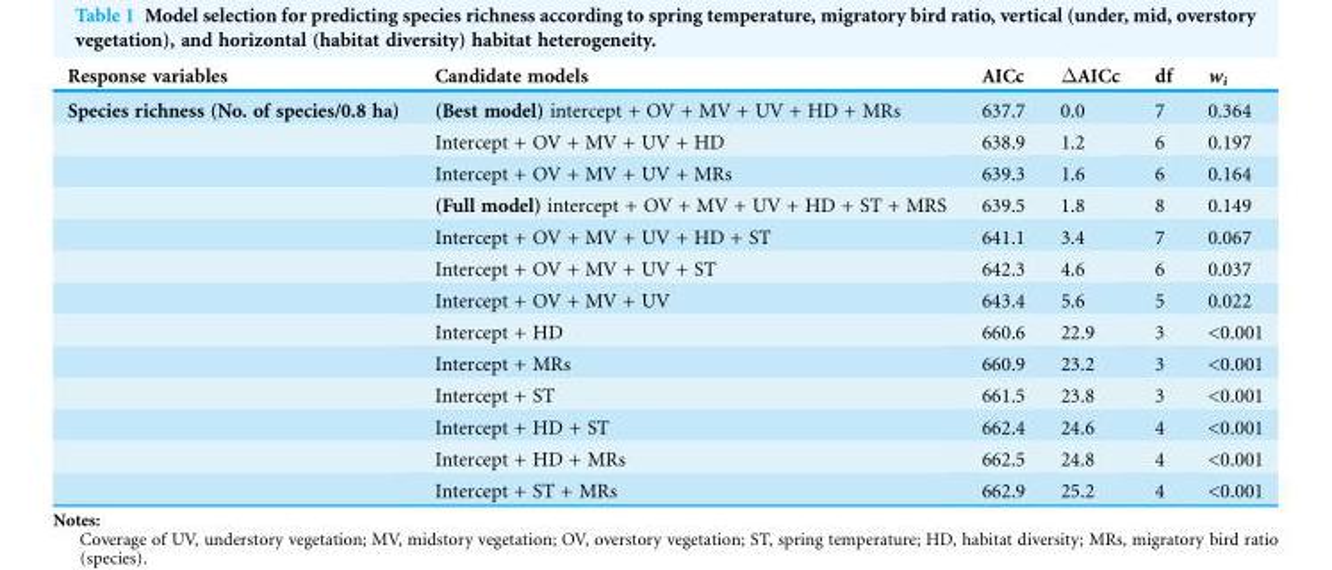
<table><thead><tr><td>Response variables</td><td>Candidate models</td><td>AICc</td><td>ΔAICc</td><td>df</td><td>w<sub>i</sub></td></tr></thead><tbody><tr><td rowspan="13">Species richness (No. of species/0.8 ha)</td><td>(Best model) intercept + OV + MV + UV + HD + MRs</td><td>637.7</td><td>0.0</td><td>7</td><td>0.364</td></tr><tr><td>Intercept + OV + MV + UV + HD</td><td>638.9</td><td>1.2</td><td>6</td><td>0.197</td></tr><tr><td>Intercept + OV + MV + UV + MRs</td><td>639.3</td><td>1.6</td><td>6</td><td>0.164</td></tr><tr><td>(Full model) intercept + OV + MV + UV + HD + ST + MRS</td><td>639.5</td><td>1.8</td><td>8</td><td>0.149</td></tr><tr><td>Intercept + OV + MV + UV + HD + ST</td><td>641.1</td><td>3.4</td><td>7</td><td>0.067</td></tr><tr><td>Intercept + OV + MV + UV + ST</td><td>642.3</td><td>4.6</td><td>6</td><td>0.037</td></tr><tr><td>Intercept + OV + MV + UV</td><td>643.4</td><td>5.6</td><td>5</td><td>0.022</td></tr><tr><td>Intercept + HD</td><td>660.6</td><td>22.9</td><td>3</td><td>&lt;0.001</td></tr><tr><td>Intercept + MRs</td><td>660.9</td><td>23.2</td><td>3</td><td>&lt;0.001</td></tr><tr><td>Intercept + ST</td><td>661.5</td><td>23.8</td><td>3</td><td>&lt;0.001</td></tr><tr><td>Intercept + HD + ST</td><td>662.4</td><td>24.6</td><td>4</td><td>&lt;0.001</td></tr><tr><td>Intercept + HD + MRs</td><td>662.5</td><td>24.8</td><td>4</td><td>&lt;0.001</td></tr><tr><td>Intercept + ST + MRs</td><td>662.9</td><td>25.2</td><td>4</td><td>&lt;0.001</td></tr></tbody></table>